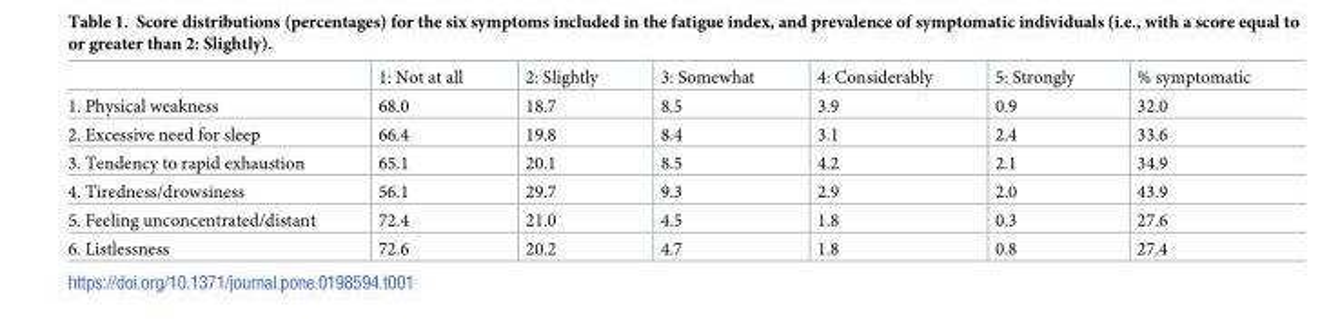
<table><thead><tr><td></td><td>1: Not at all</td><td>2: Slightly</td><td>3: Somewhat</td><td>4: Considerably</td><td>5: Strongly</td><td>% symptomatic</td></tr></thead><tbody><tr><td>1. Physical weakness</td><td>68.0</td><td>18.7</td><td>8.5</td><td>3.9</td><td>0.9</td><td>32.0</td></tr><tr><td>2. Excessive need for sleep</td><td>66.4</td><td>19.8</td><td>8.4</td><td>3.1</td><td>2.4</td><td>33.6</td></tr><tr><td>3. Tendency to rapid exhaustion</td><td>65.1</td><td>20.1</td><td>8.5</td><td>4.2</td><td>2.1</td><td>34.9</td></tr><tr><td>4. Tiredness/drowsiness</td><td>56.1</td><td>29.7</td><td>9.3</td><td>2.9</td><td>2.0</td><td>43.9</td></tr><tr><td>5. Feeling unconcentrated/distant</td><td>72.4</td><td>21.0</td><td>4.5</td><td>1.8</td><td>0.3</td><td>27.6</td></tr><tr><td>6. Listlessness</td><td>72.6</td><td>20.2</td><td>4.7</td><td>1.8</td><td>0.8</td><td>27.4</td></tr></tbody></table>